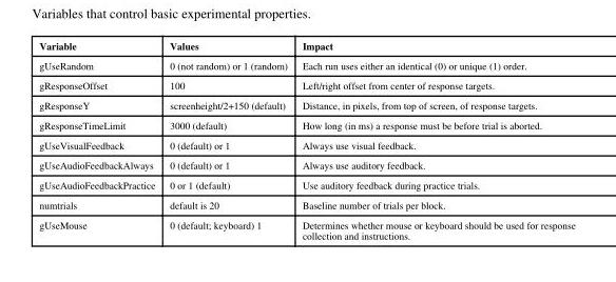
<table><thead><tr><td>Variable</td><td>Values</td><td>Impact</td></tr></thead><tbody><tr><td>gUseRandom</td><td>0 (not random) or 1 (random)</td><td>Each run uses either an identical (0) or unique (1) order.</td></tr><tr><td>gResponseOffset</td><td>100</td><td>Left/right offset from center of response targets.</td></tr><tr><td>gResponseY</td><td>screenheight/2+150 (default)</td><td>Distance, in pixels, from top of screen, of response targets.</td></tr><tr><td>gResponseTimeLimit</td><td>3000 (default)</td><td>How long (in ms) a response must be before trial is aborted.</td></tr><tr><td>gUseVisualFeedback</td><td>0 (default) or 1</td><td>Always use visual feedback.</td></tr><tr><td>gUseAudioFeedbackAlways</td><td>0 (default) or 1</td><td>Always use auditory feedback.</td></tr><tr><td>gUseAudioFeedbackPractice</td><td>0 or 1 (default)</td><td>Use auditory feedback during practice trials.</td></tr><tr><td>numtrials</td><td>default is 20</td><td>Baseline number of trials per block.</td></tr><tr><td>gUseMouse</td><td>0 (default; keyboard) 1</td><td>Determines whether mouse or keyboard should be used for response collection and instructions.</td></tr></tbody></table>